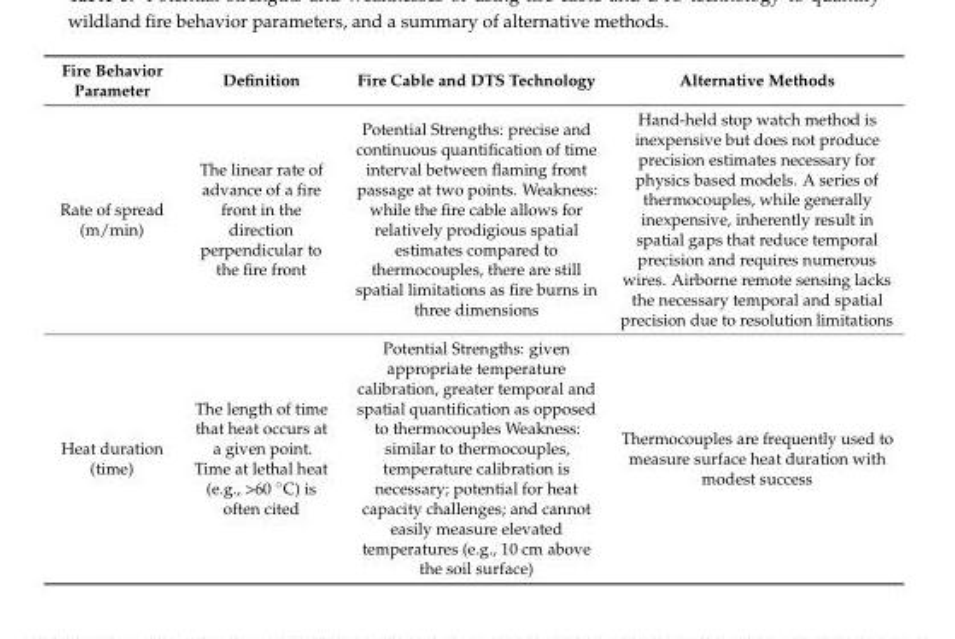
<table><thead><tr><td>Fire Behavior Parameter</td><td>Definition</td><td>Fire Cable and DTS Technology</td><td>Alternative Methods</td></tr></thead><tbody><tr><td>Rate of spread (m/min)</td><td>The linear rate of advance of a fire front in the direction perpendicular to the fire front</td><td>Potential Strengths: precise and continuous quantification of time interval between flaming front passage at two points. Weakness: while the fire cable allows for relatively prodigious spatial estimates compared to thermocouples, there are still spatial limitations as fire burns in three dimensions</td><td>Hand-held stop watch method is inexpensive but does not produce precision estimates necessary for physics based models. A series of thermocouples, while generally inexpensive, inherently result in spatial gaps that reduce temporal precision and requires numerous wires. Airborne remote sensing lacks the necessary temporal and spatial precision due to resolution limitations</td></tr><tr><td>Heat duration (time)</td><td>The length of time that heat occurs at a given point. Time at lethal heat (e.g., &gt;60 ◦C) is often cited</td><td>Potential Strengths: given appropriate temperature calibration, greater temporal and spatial quantification as opposed to thermocouples Weakness: similar to thermocouples, temperature calibration is necessary; potential for heat capacity challenges; and cannot easily measure elevated temperatures (e.g., 10 cm above the soil surface)</td><td>Thermocouples are frequently used to measure surface heat duration with modest success</td></tr></tbody></table>